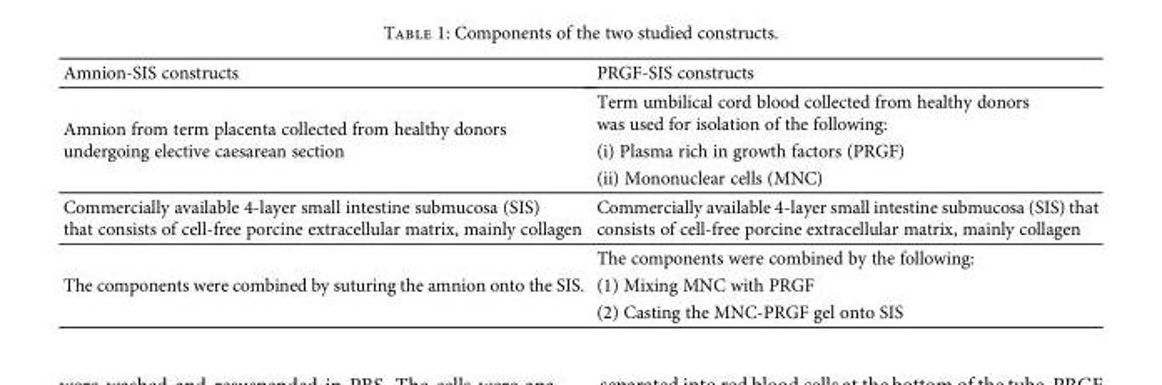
<table><thead><tr><td>Amnion-SIS constructs</td><td>PRGF-SIS constructs</td></tr></thead><tbody><tr><td rowspan="3">Amnion from term placenta collected from healthy donors undergoing elective caesarean section</td><td>Term umbilical cord blood collected from healthy donors was used for isolation of the following:</td></tr><tr><td>(i) Plasma rich in growth factors (PRGF)</td></tr><tr><td>(ii) Mononuclear cells (MNC)</td></tr><tr><td>Commercially available 4-layer small intestine submucosa (SIS) that consists of cell-free porcine extracellular matrix, mainly collagen</td><td>Commercially available 4-layer small intestine submucosa (SIS) that consists of cell-free porcine extracellular matrix, mainly collagen</td></tr><tr><td rowspan="3">The components were combined by suturing the amnion onto the SIS.</td><td>The components were combined by the following:</td></tr><tr><td>(1) Mixing MNC with PRGF</td></tr><tr><td>(2) Casting the MNC-PRGF gel onto SIS</td></tr></tbody></table>